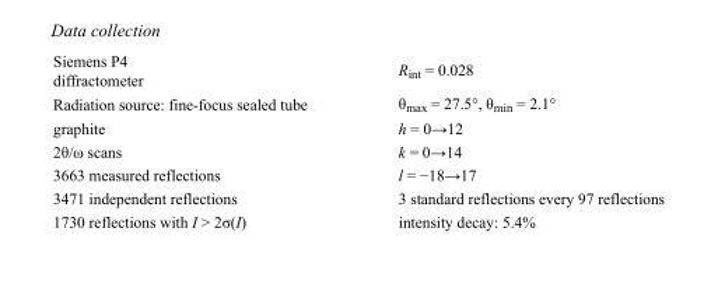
<table><tbody><tr><td>Siemens P4 diffractometer</td><td>R<sub>int</sub> = 0.028</td></tr><tr><td>Radiation source: fine-focus sealed tube</td><td>θ<sub>max</sub> = 27.5°, θ<sub>min</sub> = 2.1°</td></tr><tr><td>graphite</td><td>h = 0→12</td></tr><tr><td>2θ/ω scans</td><td>k = 0→14</td></tr><tr><td>3663 measured reflections</td><td>l = −18→17</td></tr><tr><td>3471 independent reflections</td><td>3 standard reflections every 97 reflections</td></tr><tr><td>1730 reflections with I &gt; 2σ(I)</td><td>intensity decay: 5.4%</td></tr></tbody></table>